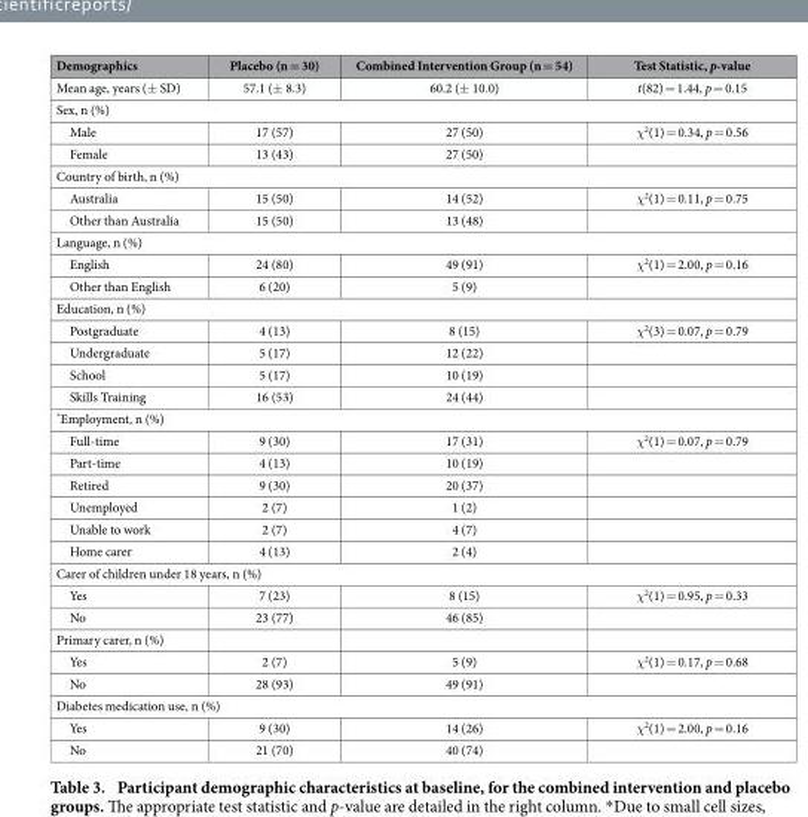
<table><thead><tr><td>Demographics</td><td>Placebo (n = 30)</td><td>Combined Intervention Group (n = 54)</td><td>Test Statistic, p-value</td></tr></thead><tbody><tr><td>Mean age, years (± SD)</td><td>57.1 (± 8.3)</td><td>60.2 (± 10.0)</td><td>t(82) = 1.44, p = 0.15</td></tr><tr><td colspan="4">Sex, n (%)</td></tr><tr><td>Male</td><td>17 (57)</td><td>27 (50)</td><td>χ<sup>2</sup>(1) = 0.34, p = 0.56</td></tr><tr><td>Female</td><td>13 (43)</td><td>27 (50)</td><td></td></tr><tr><td colspan="4">Country of birth, n (%)</td></tr><tr><td>Australia</td><td>15 (50)</td><td>14 (52)</td><td>χ<sup>2</sup>(1) = 0.11, p = 0.75</td></tr><tr><td>Other than Australia</td><td>15 (50)</td><td>13 (48)</td><td></td></tr><tr><td colspan="4">Language, n (%)</td></tr><tr><td>English</td><td>24 (80)</td><td>49 (91)</td><td>χ<sup>2</sup>(1) = 2.00, p = 0.16</td></tr><tr><td>Other than English</td><td>6 (20)</td><td>5 (9)</td><td></td></tr><tr><td colspan="4">Education, n (%)</td></tr><tr><td>Postgraduate</td><td>4 (13)</td><td>8 (15)</td><td>χ<sup>2</sup>(3) = 0.07, p = 0.79</td></tr><tr><td>Undergraduate</td><td>5 (17)</td><td>12 (22)</td><td></td></tr><tr><td>School</td><td>5 (17)</td><td>10 (19)</td><td></td></tr><tr><td>Skills Training</td><td>16 (53)</td><td>24 (44)</td><td></td></tr><tr><td colspan="4">*Employment, n (%)</td></tr><tr><td>Full-time</td><td>9 (30)</td><td>17 (31)</td><td>χ<sup>2</sup>(1) = 0.07, p = 0.79</td></tr><tr><td>Part-time</td><td>4 (13)</td><td>10 (19)</td><td></td></tr><tr><td>Retired</td><td>9 (30)</td><td>20 (37)</td><td></td></tr><tr><td>Unemployed</td><td>2 (7)</td><td>1 (2)</td><td></td></tr><tr><td>Unable to work</td><td>2 (7)</td><td>4 (7)</td><td></td></tr><tr><td>Home carer</td><td>4 (13)</td><td>2 (4)</td><td></td></tr><tr><td colspan="4">Carer of children under 18 years, n (%)</td></tr><tr><td>Yes</td><td>7 (23)</td><td>8 (15)</td><td>χ<sup>2</sup>(1) = 0.95, p = 0.33</td></tr><tr><td>No</td><td>23 (77)</td><td>46 (85)</td><td></td></tr><tr><td colspan="4">Primary carer, n (%)</td></tr><tr><td>Yes</td><td>2 (7)</td><td>5 (9)</td><td>χ<sup>2</sup>(1) = 0.17, p = 0.68</td></tr><tr><td>No</td><td>28 (93)</td><td>49 (91)</td><td></td></tr><tr><td colspan="4">Diabetes medication use, n (%)</td></tr><tr><td>Yes</td><td>9 (30)</td><td>14 (26)</td><td>χ<sup>2</sup>(1) = 2.00, p = 0.16</td></tr><tr><td>No</td><td>21 (70)</td><td>40 (74)</td><td></td></tr></tbody></table>